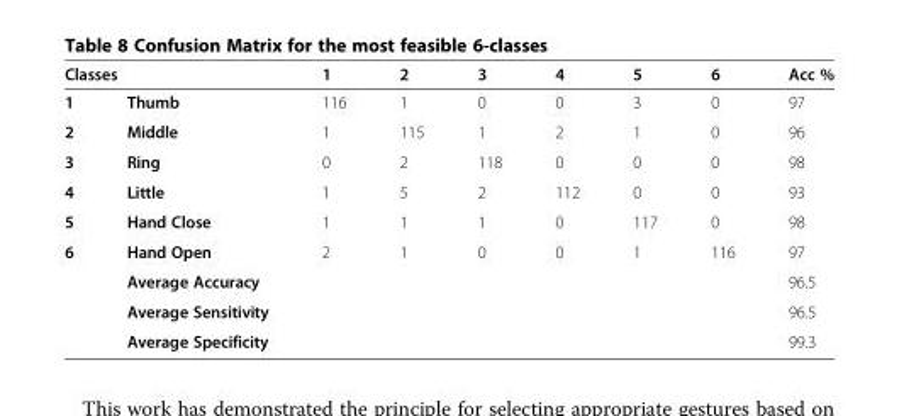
<table><thead><tr><td colspan="2">Classes</td><td rowspan="2">1 116</td><td rowspan="2">2 1</td><td rowspan="2">3 0</td><td rowspan="2">4 0</td><td rowspan="2">5 3</td><td rowspan="2">6 0</td><td rowspan="2">Acc % 97</td></tr><tr><td>1</td><td>Thumb</td></tr></thead><tbody><tr><td>2</td><td>Middle</td><td>1</td><td>115</td><td>1</td><td>2</td><td>1</td><td>0</td><td>96</td></tr><tr><td>3</td><td>Ring</td><td>0</td><td>2</td><td>118</td><td>0</td><td>0</td><td>0</td><td>98</td></tr><tr><td>4</td><td>Little</td><td>1</td><td>5</td><td>2</td><td>112</td><td>0</td><td>0</td><td>93</td></tr><tr><td>5</td><td>Hand Close</td><td>1</td><td>1</td><td>1</td><td>0</td><td>117</td><td>0</td><td>98</td></tr><tr><td rowspan="4">6</td><td>Hand Open</td><td>2</td><td>1</td><td>0</td><td>0</td><td>1</td><td>116</td><td>97</td></tr><tr><td>Average Accuracy</td><td></td><td></td><td></td><td></td><td></td><td></td><td>96.5</td></tr><tr><td>Average Sensitivity</td><td></td><td></td><td></td><td></td><td></td><td></td><td>96.5</td></tr><tr><td>Average Specificity</td><td></td><td></td><td></td><td></td><td></td><td></td><td>99.3</td></tr></tbody></table>